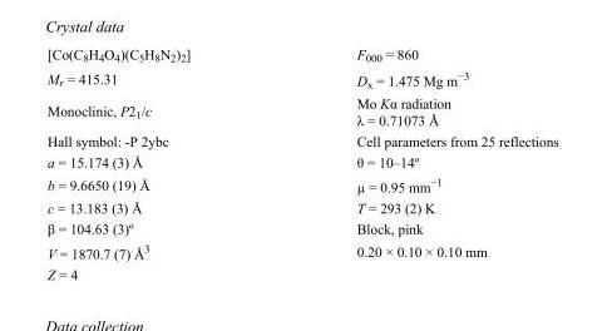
<table><tbody><tr><td>[Co(C<sub>8</sub>H<sub>4</sub>O<sub>4</sub>)(C<sub>5</sub>H<sub>8</sub>N<sub>2</sub>)<sub>2</sub>]</td><td>F000 = 860</td></tr><tr><td>M<sub>r</sub> = 415.31</td><td>D<sub>x</sub> = 1.475 Mg m<sup>−3</sup></td></tr><tr><td>Monoclinic, P2<sub>1</sub>/c</td><td>Mo Kα radiation λ = 0.71073 Å</td></tr><tr><td>Hall symbol: -P 2ybc</td><td>Cell parameters from 25 reflections</td></tr><tr><td>a = 15.174 (3) Å</td><td>θ = 10–14º</td></tr><tr><td>b = 9.6650 (19) Å</td><td>µ = 0.95 mm<sup>−1</sup></td></tr><tr><td>c = 13.183 (3) Å</td><td>T = 293 (2) K</td></tr><tr><td>β = 104.63 (3)º</td><td>Block, pink</td></tr><tr><td>V = 1870.7 (7) Å<sup>3</sup></td><td>0.20 × 0.10 × 0.10 mm</td></tr><tr><td>Z = 4</td><td></td></tr></tbody></table>